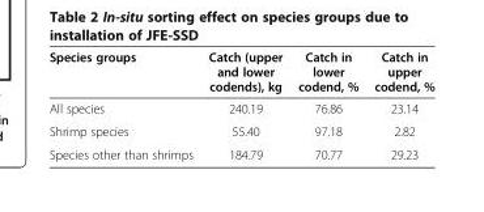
<table><thead><tr><td>Species groups</td><td>Catch (upper and lower codends), kg</td><td>Catch in lower codend, %</td><td>Catch in upper codend, %</td></tr></thead><tbody><tr><td>All species</td><td>240.19</td><td>76.86</td><td>23.14</td></tr><tr><td>Shrimp species</td><td>55.40</td><td>97.18</td><td>2.82</td></tr><tr><td>Species other than shrimps</td><td>184.79</td><td>70.77</td><td>29.23</td></tr></tbody></table>